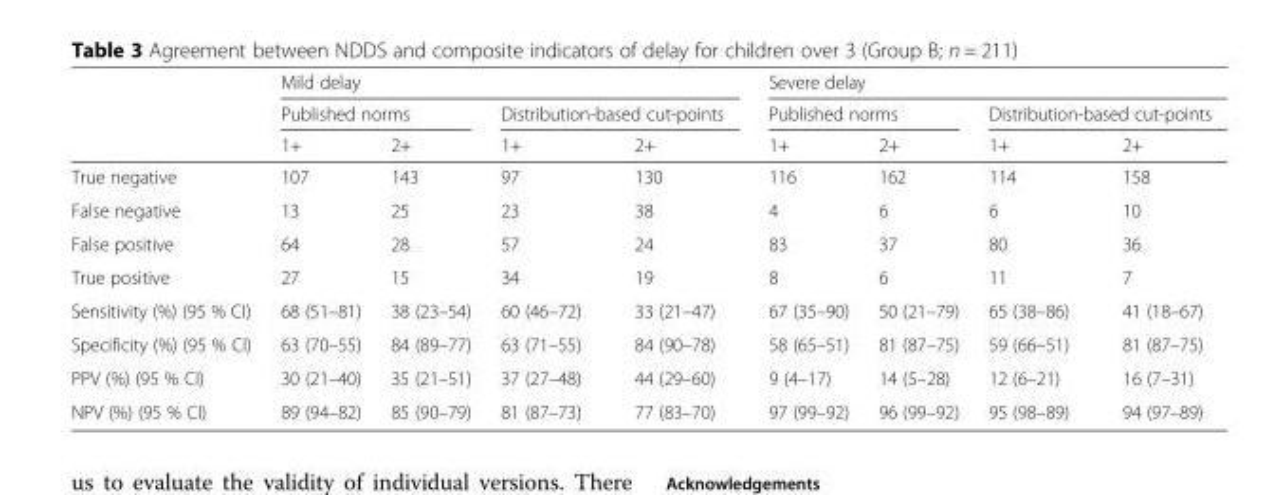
<table><thead><tr><td rowspan="3"></td><td colspan="4">Mild delay</td><td colspan="4">Severe delay</td></tr><tr><td colspan="2">Published norms</td><td colspan="2">Distribution-based cut-points</td><td colspan="2">Published norms</td><td colspan="2">Distribution-based cut-points</td></tr><tr><td>1+</td><td>2+</td><td>1+</td><td>2+</td><td>1+</td><td>2+</td><td>1+</td><td>2+</td></tr></thead><tbody><tr><td>True negative</td><td>107</td><td>143</td><td>97</td><td>130</td><td>116</td><td>162</td><td>114</td><td>158</td></tr><tr><td>False negative</td><td>13</td><td>25</td><td>23</td><td>38</td><td>4</td><td>6</td><td>6</td><td>10</td></tr><tr><td>False positive</td><td>64</td><td>28</td><td>57</td><td>24</td><td>83</td><td>37</td><td>80</td><td>36</td></tr><tr><td>True positive</td><td>27</td><td>15</td><td>34</td><td>19</td><td>8</td><td>6</td><td>11</td><td>7</td></tr><tr><td>Sensitivity (%) (95 % CI)</td><td>68 (51–81)</td><td>38 (23–54)</td><td>60 (46–72)</td><td>33 (21–47)</td><td>67 (35–90)</td><td>50 (21–79)</td><td>65 (38–86)</td><td>41 (18–67)</td></tr><tr><td>Specificity (%) (95 % CI)</td><td>63 (70–55)</td><td>84 (89–77)</td><td>63 (71–55)</td><td>84 (90–78)</td><td>58 (65–51)</td><td>81 (87–75)</td><td>59 (66–51)</td><td>81 (87–75)</td></tr><tr><td>PPV (%) (95 % CI)</td><td>30 (21–40)</td><td>35 (21–51)</td><td>37 (27–48)</td><td>44 (29–60)</td><td>9 (4–17)</td><td>14 (5–28)</td><td>12 (6–21)</td><td>16 (7–31)</td></tr><tr><td>NPV (%) (95 % CI)</td><td>89 (94–82)</td><td>85 (90–79)</td><td>81 (87–73)</td><td>77 (83–70)</td><td>97 (99–92)</td><td>96 (99–92)</td><td>95 (98–89)</td><td>94 (97–89)</td></tr></tbody></table>